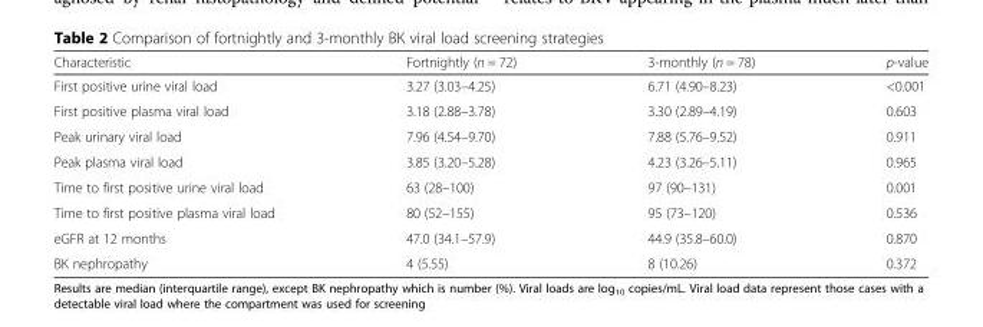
<table><thead><tr><td>Characteristic</td><td>Fortnightly (n = 72)</td><td>3-monthly (n = 78)</td><td>p-value</td></tr></thead><tbody><tr><td>First positive urine viral load</td><td>3.27 (3.03–4.25)</td><td>6.71 (4.90–8.23)</td><td>&lt;0.001</td></tr><tr><td>First positive plasma viral load</td><td>3.18 (2.88–3.78)</td><td>3.30 (2.89–4.19)</td><td>0.603</td></tr><tr><td>Peak urinary viral load</td><td>7.96 (4.54–9.70)</td><td>7.88 (5.76–9.52)</td><td>0.911</td></tr><tr><td>Peak plasma viral load</td><td>3.85 (3.20–5.28)</td><td>4.23 (3.26–5.11)</td><td>0.965</td></tr><tr><td>Time to first positive urine viral load</td><td>63 (28–100)</td><td>97 (90–131)</td><td>0.001</td></tr><tr><td>Time to first positive plasma viral load</td><td>80 (52–155)</td><td>95 (73–120)</td><td>0.536</td></tr><tr><td>eGFR at 12 months</td><td>47.0 (34.1–57.9)</td><td>44.9 (35.8–60.0)</td><td>0.870</td></tr><tr><td>BK nephropathy</td><td>4 (5.55)</td><td>8 (10.26)</td><td>0.372</td></tr></tbody></table>